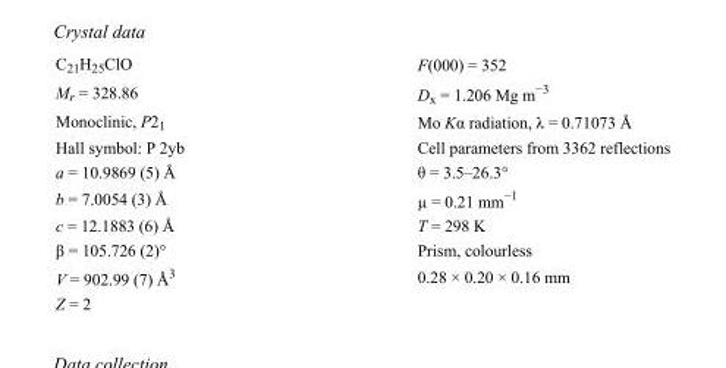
<table><tbody><tr><td>C<sub>21</sub>H<sub>25</sub>ClO</td><td>F(000) = 352</td></tr><tr><td>M<sub>r</sub> = 328.86</td><td>D<sub>x</sub> = 1.206 Mg m<sup>−3</sup></td></tr><tr><td>Monoclinic, P2<sub>1</sub></td><td>Mo Kα radiation, λ = 0.71073 Å</td></tr><tr><td>Hall symbol: P 2yb</td><td>Cell parameters from 3362 reflections</td></tr><tr><td>a = 10.9869 (5) Å</td><td>θ = 3.5–26.3°</td></tr><tr><td>b = 7.0054 (3) Å</td><td>µ = 0.21 mm<sup>−1</sup></td></tr><tr><td>c = 12.1883 (6) Å</td><td>T = 298 K</td></tr><tr><td>β = 105.726 (2)°</td><td>Prism, colourless</td></tr><tr><td>V = 902.99 (7) Å<sup>3</sup></td><td>0.28 × 0.20 × 0.16 mm</td></tr><tr><td>Z = 2</td><td></td></tr></tbody></table>